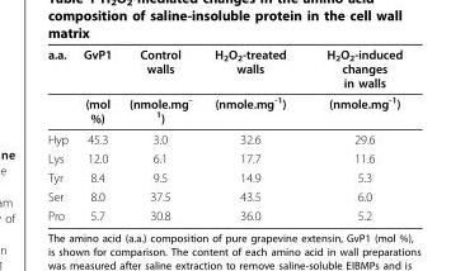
<table><thead><tr><td>a.a.</td><td>GvP1</td><td>Control walls</td><td>H<sub>2</sub>O<sub>2</sub>-treated walls</td><td>H<sub>2</sub>O<sub>2</sub>-induced changes in walls</td></tr></thead><tbody><tr><td></td><td>(mol %)</td><td>(nmole.mg<sup>- 1</sup>)</td><td>(nmole.mg<sup>-1</sup>)</td><td>(nmole.mg<sup>-1</sup>)</td></tr><tr><td>Hyp</td><td>45.3</td><td>3.0</td><td>32.6</td><td>29.6</td></tr><tr><td>Lys</td><td>12.0</td><td>6.1</td><td>17.7</td><td>11.6</td></tr><tr><td>Tyr</td><td>8.4</td><td>9.5</td><td>14.9</td><td>5.3</td></tr><tr><td>Ser</td><td>8.0</td><td>37.5</td><td>43.5</td><td>6.0</td></tr><tr><td>Pro</td><td>5.7</td><td>30.8</td><td>36.0</td><td>5.2</td></tr></tbody></table>